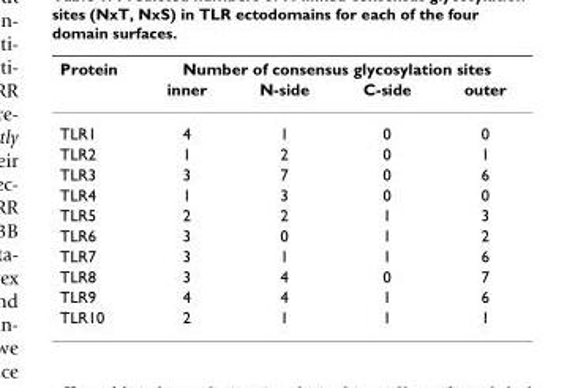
<table><thead><tr><td rowspan="2">Protein</td><td colspan="4">Number of consensus glycosylation sites</td></tr><tr><td>inner</td><td>N-side</td><td>C-side</td><td>outer</td></tr></thead><tbody><tr><td>TLR1</td><td>4</td><td>1</td><td>0</td><td>0</td></tr><tr><td>TLR2</td><td>1</td><td>2</td><td>0</td><td>1</td></tr><tr><td>TLR3</td><td>3</td><td>7</td><td>0</td><td>6</td></tr><tr><td>TLR4</td><td>1</td><td>3</td><td>0</td><td>0</td></tr><tr><td>TLR5</td><td>2</td><td>2</td><td>1</td><td>3</td></tr><tr><td>TLR6</td><td>3</td><td>0</td><td>1</td><td>2</td></tr><tr><td>TLR7</td><td>3</td><td>1</td><td>1</td><td>6</td></tr><tr><td>TLR8</td><td>3</td><td>4</td><td>0</td><td>7</td></tr><tr><td>TLR9</td><td>4</td><td>4</td><td>1</td><td>6</td></tr><tr><td>TLR10</td><td>2</td><td>1</td><td>1</td><td>1</td></tr></tbody></table>